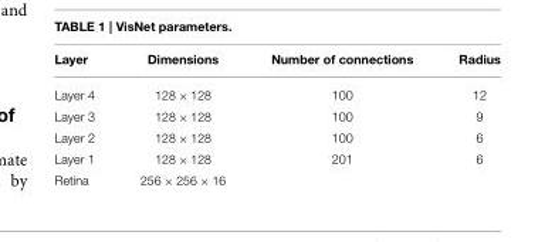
<table><thead><tr><td>Layer</td><td>Dimensions</td><td>Number of connections</td><td>Radius</td></tr></thead><tbody><tr><td>Layer 4</td><td>128 × 128</td><td>100</td><td>12</td></tr><tr><td>Layer 3</td><td>128 × 128</td><td>100</td><td>9</td></tr><tr><td>Layer 2</td><td>128 × 128</td><td>100</td><td>6</td></tr><tr><td>Layer 1</td><td>128 × 128</td><td>201</td><td>6</td></tr><tr><td>Retina</td><td>256 × 256 × 16</td><td></td><td></td></tr></tbody></table>